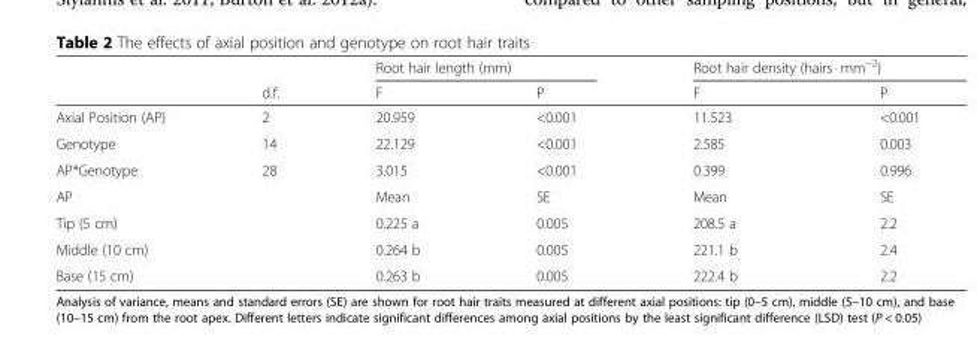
<table><thead><tr><td rowspan="2"></td><td rowspan="2">d.f.</td><td colspan="2">Root hair length (mm)</td><td colspan="2">Root hair density (hairs · mm<sup>−2</sup>)</td></tr><tr><td>F</td><td>P</td><td>F</td><td>P</td></tr></thead><tbody><tr><td>Axial Position (AP)</td><td>2</td><td>20.959</td><td>&lt;0.001</td><td>11.523</td><td>&lt;0.001</td></tr><tr><td>Genotype</td><td>14</td><td>22.129</td><td>&lt;0.001</td><td>2.585</td><td>0.003</td></tr><tr><td>AP*Genotype</td><td>28</td><td>3.015</td><td>&lt;0.001</td><td>0.399</td><td>0.996</td></tr><tr><td colspan="2">AP</td><td>Mean</td><td>SE</td><td>Mean</td><td>SE</td></tr><tr><td colspan="2">Tip (5 cm)</td><td>0.225 a</td><td>0.005</td><td>208.5 a</td><td>2.2</td></tr><tr><td colspan="2">Middle (10 cm)</td><td>0.264 b</td><td>0.005</td><td>221.1 b</td><td>2.4</td></tr><tr><td colspan="2">Base (15 cm)</td><td>0.263 b</td><td>0.005</td><td>222.4 b</td><td>2.2</td></tr></tbody></table>